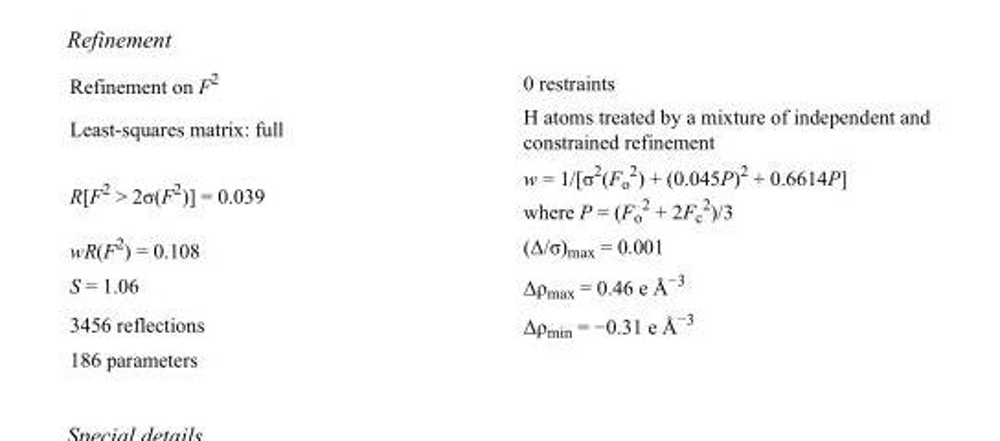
<table><tbody><tr><td>Refinement on F<sup>2</sup></td><td>0 restraints</td></tr><tr><td>Least-squares matrix: full</td><td>H atoms treated by a mixture of independent and constrained refinement</td></tr><tr><td>R[F<sup>2</sup> &gt; 2σ(F<sup>2</sup>)] = 0.039</td><td>w = 1/[σ<sup>2</sup>(F<sub>o</sub> <sup>2</sup>) + (0.045P)<sup>2</sup> + 0.6614P] where P = (F<sub>o</sub> <sup>2</sup> + 2F<sub>c</sub> <sup>2</sup>)/3</td></tr><tr><td>wR(F<sup>2</sup>) = 0.108</td><td>(Δ/σ)<sub>max</sub> = 0.001</td></tr><tr><td>S = 1.06</td><td>Δρ<sub>max</sub> = 0.46 e Å<sup>−3</sup></td></tr><tr><td>3456 reflections</td><td>Δρ<sub>min</sub> = −0.31 e Å<sup>−3</sup></td></tr><tr><td>186 parameters</td><td></td></tr></tbody></table>